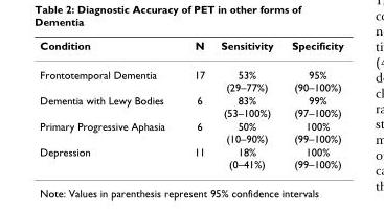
<table><thead><tr><td>Condition</td><td>N</td><td>Sensitivity</td><td>Specificity</td></tr></thead><tbody><tr><td>Frontotemporal Dementia</td><td>17</td><td>53% (29–77%)</td><td>95% (90–100%)</td></tr><tr><td>Dementia with Lewy Bodies</td><td>6</td><td>83% (53–100%)</td><td>99% (97–100%)</td></tr><tr><td>Primary Progressive Aphasia</td><td>6</td><td>50% (10–90%)</td><td>100% (99–100%)</td></tr><tr><td>Depression</td><td>11</td><td>18% (0–41%)</td><td>100% (99–100%)</td></tr></tbody></table>